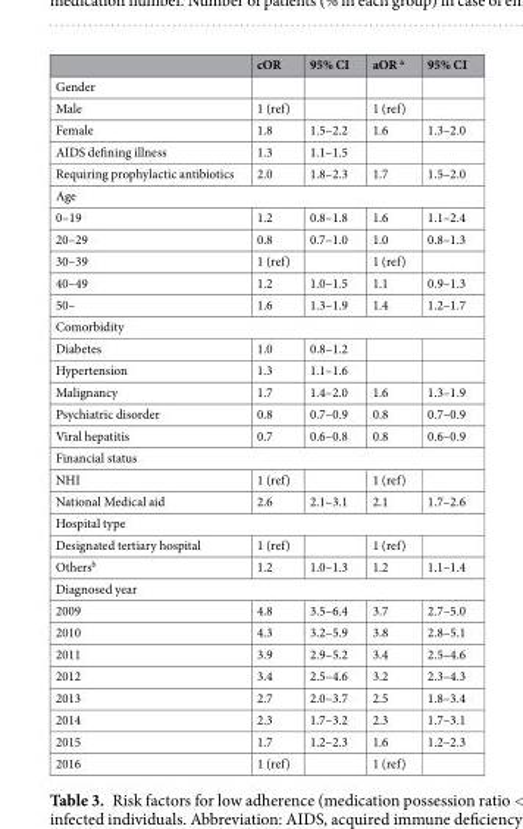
<table><thead><tr><td></td><td>cOR</td><td>95% CI</td><td>aOR <sup>a</sup></td><td>95% CI</td></tr></thead><tbody><tr><td colspan="5">Gender</td></tr><tr><td>Male</td><td>1 (ref)</td><td></td><td>1 (ref)</td><td></td></tr><tr><td>Female</td><td>1.8</td><td>1.5–2.2</td><td>1.6</td><td>1.3–2.0</td></tr><tr><td>AIDS defining illness</td><td>1.3</td><td>1.1–1.5</td><td></td><td></td></tr><tr><td>Requiring prophylactic antibiotics</td><td>2.0</td><td>1.8–2.3</td><td>1.7</td><td>1.5–2.0</td></tr><tr><td colspan="5">Age</td></tr><tr><td>0–19</td><td>1.2</td><td>0.8–1.8</td><td>1.6</td><td>1.1–2.4</td></tr><tr><td>20–29</td><td>0.8</td><td>0.7–1.0</td><td>1.0</td><td>0.8–1.3</td></tr><tr><td>30–39</td><td>1 (ref)</td><td></td><td>1 (ref)</td><td></td></tr><tr><td>40–49</td><td>1.2</td><td>1.0–1.5</td><td>1.1</td><td>0.9–1.3</td></tr><tr><td>50–</td><td>1.6</td><td>1.3–1.9</td><td>1.4</td><td>1.2–1.7</td></tr><tr><td colspan="5">Comorbidity</td></tr><tr><td>Diabetes</td><td>1.0</td><td>0.8–1.2</td><td></td><td></td></tr><tr><td>Hypertension</td><td>1.3</td><td>1.1–1.6</td><td></td><td></td></tr><tr><td>Malignancy</td><td>1.7</td><td>1.4–2.0</td><td>1.6</td><td>1.3–1.9</td></tr><tr><td>Psychiatric disorder</td><td>0.8</td><td>0.7–0.9</td><td>0.8</td><td>0.7–0.9</td></tr><tr><td>Viral hepatitis</td><td>0.7</td><td>0.6–0.8</td><td>0.8</td><td>0.6–0.9</td></tr><tr><td colspan="5">Financial status</td></tr><tr><td>NHI</td><td>1 (ref)</td><td></td><td>1 (ref)</td><td></td></tr><tr><td>National Medical aid</td><td>2.6</td><td>2.1–3.1</td><td>2.1</td><td>1.7–2.6</td></tr><tr><td colspan="5">Hospital type</td></tr><tr><td>Designated tertiary hospital</td><td>1 (ref)</td><td></td><td>1 (ref)</td><td></td></tr><tr><td>Others<sup>b</sup></td><td>1.2</td><td>1.0–1.3</td><td>1.2</td><td>1.1–1.4</td></tr><tr><td colspan="5">Diagnosed year</td></tr><tr><td>2009</td><td>4.8</td><td>3.5–6.4</td><td>3.7</td><td>2.7–5.0</td></tr><tr><td>2010</td><td>4.3</td><td>3.2–5.9</td><td>3.8</td><td>2.8–5.1</td></tr><tr><td>2011</td><td>3.9</td><td>2.9–5.2</td><td>3.4</td><td>2.5–4.6</td></tr><tr><td>2012</td><td>3.4</td><td>2.5–4.6</td><td>3.2</td><td>2.3–4.3</td></tr><tr><td>2013</td><td>2.7</td><td>2.0–3.7</td><td>2.5</td><td>1.8–3.4</td></tr><tr><td>2014</td><td>2.3</td><td>1.7–3.2</td><td>2.3</td><td>1.7–3.1</td></tr><tr><td>2015</td><td>1.7</td><td>1.2–2.3</td><td>1.6</td><td>1.2–2.3</td></tr><tr><td>2016</td><td>1 (ref)</td><td></td><td>1 (ref)</td><td></td></tr></tbody></table>